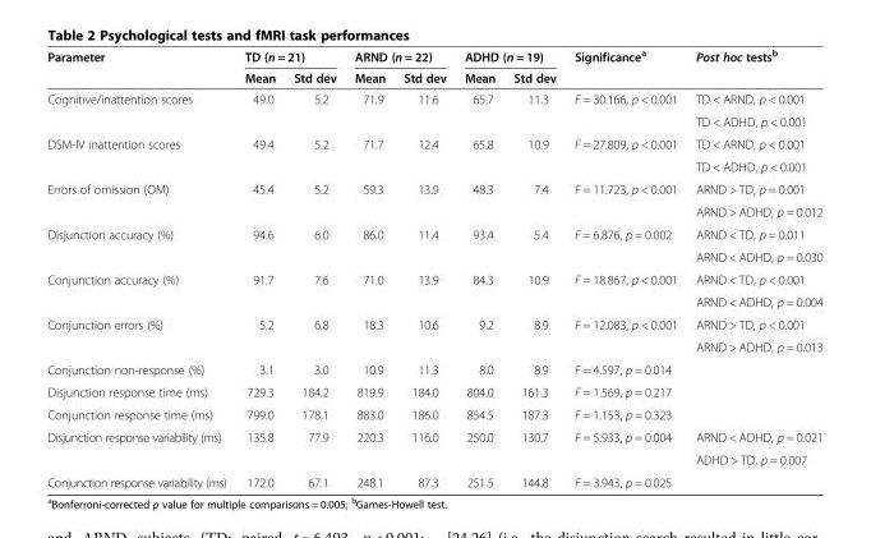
<table><thead><tr><td rowspan="2">Parameter</td><td colspan="2">TD (n = 21)</td><td colspan="2">ARND (n = 22)</td><td colspan="2">ADHD (n = 19)</td><td rowspan="2">Significance<sup>a</sup></td><td rowspan="2">Post hoc tests<sup>b</sup></td></tr><tr><td>Mean</td><td>Std dev</td><td>Mean</td><td>Std dev</td><td>Mean</td><td>Std dev</td></tr></thead><tbody><tr><td rowspan="2">Cognitive/inattention scores</td><td rowspan="2">49.0</td><td rowspan="2">5.2</td><td rowspan="2">71.9</td><td rowspan="2">11.6</td><td rowspan="2">65.7</td><td rowspan="2">11.3</td><td rowspan="2">F = 30.166, p &lt; 0.001</td><td>TD &lt; ARND, p &lt; 0.001</td></tr><tr><td>TD &lt; ADHD, p &lt; 0.001</td></tr><tr><td rowspan="2">DSM-IV inattention scores</td><td rowspan="2">49.4</td><td rowspan="2">5.2</td><td rowspan="2">71.7</td><td rowspan="2">12.4</td><td rowspan="2">65.8</td><td rowspan="2">10.9</td><td rowspan="2">F = 27.809, p &lt; 0.001</td><td>TD &lt; ARND, p &lt; 0.001</td></tr><tr><td>TD &lt; ADHD, p &lt; 0.001</td></tr><tr><td rowspan="2">Errors of omission (OM)</td><td rowspan="2">45.4</td><td rowspan="2">5.2</td><td rowspan="2">59.3</td><td rowspan="2">13.9</td><td rowspan="2">48.3</td><td rowspan="2">7.4</td><td rowspan="2">F = 11.723, p &lt; 0.001</td><td>ARND &gt; TD, p = 0.001</td></tr><tr><td>ARND &gt; ADHD, p = 0.012</td></tr><tr><td rowspan="2">Disjunction accuracy (%)</td><td rowspan="2">94.6</td><td rowspan="2">6.0</td><td rowspan="2">86.0</td><td rowspan="2">11.4</td><td rowspan="2">93.4</td><td rowspan="2">5.4</td><td rowspan="2">F = 6.876, p = 0.002</td><td>ARND &lt; TD, p = 0.011</td></tr><tr><td>ARND &lt; ADHD, p = 0.030</td></tr><tr><td rowspan="2">Conjunction accuracy (%)</td><td rowspan="2">91.7</td><td rowspan="2">7.6</td><td rowspan="2">71.0</td><td rowspan="2">13.9</td><td rowspan="2">84.3</td><td rowspan="2">10.9</td><td rowspan="2">F = 18.867, p &lt; 0.001</td><td>ARND &lt; TD, p &lt; 0.001</td></tr><tr><td>ARND &lt; ADHD, p = 0.004</td></tr><tr><td rowspan="2">Conjunction errors (%)</td><td rowspan="2">5.2</td><td rowspan="2">6.8</td><td rowspan="2">18.3</td><td rowspan="2">10.6</td><td rowspan="2">9.2</td><td rowspan="2">8.9</td><td rowspan="2">F = 12.083, p &lt; 0.001</td><td>ARND &gt; TD, p &lt; 0.001</td></tr><tr><td>ARND &gt; ADHD, p = 0.013</td></tr><tr><td>Conjunction non-response (%)</td><td>3.1</td><td>3.0</td><td>10.9</td><td>11.3</td><td>8.0</td><td>8.9</td><td>F = 4.597, p = 0.014</td><td></td></tr><tr><td>Disjunction response time (ms)</td><td>729.3</td><td>184.2</td><td>819.9</td><td>184.0</td><td>804.0</td><td>161.3</td><td>F = 1.569, p = 0.217</td><td></td></tr><tr><td>Conjunction response time (ms)</td><td>799.0</td><td>178.1</td><td>883.0</td><td>186.0</td><td>854.5</td><td>187.3</td><td>F = 1.153, p = 0.323</td><td></td></tr><tr><td rowspan="2">Disjunction response variability (ms)</td><td rowspan="2">135.8</td><td rowspan="2">77.9</td><td rowspan="2">220.3</td><td rowspan="2">116.0</td><td rowspan="2">250.0</td><td rowspan="2">130.7</td><td rowspan="2">F = 5.933, p = 0.004</td><td>ARND &lt; ADHD, p = 0.021</td></tr><tr><td>ADHD &gt; TD, p = 0.007</td></tr><tr><td>Conjunction response variability (ms)</td><td>172.0</td><td>67.1</td><td>248.1</td><td>87.3</td><td>251.5</td><td>144.8</td><td>F = 3.943, p = 0.025</td><td></td></tr></tbody></table>